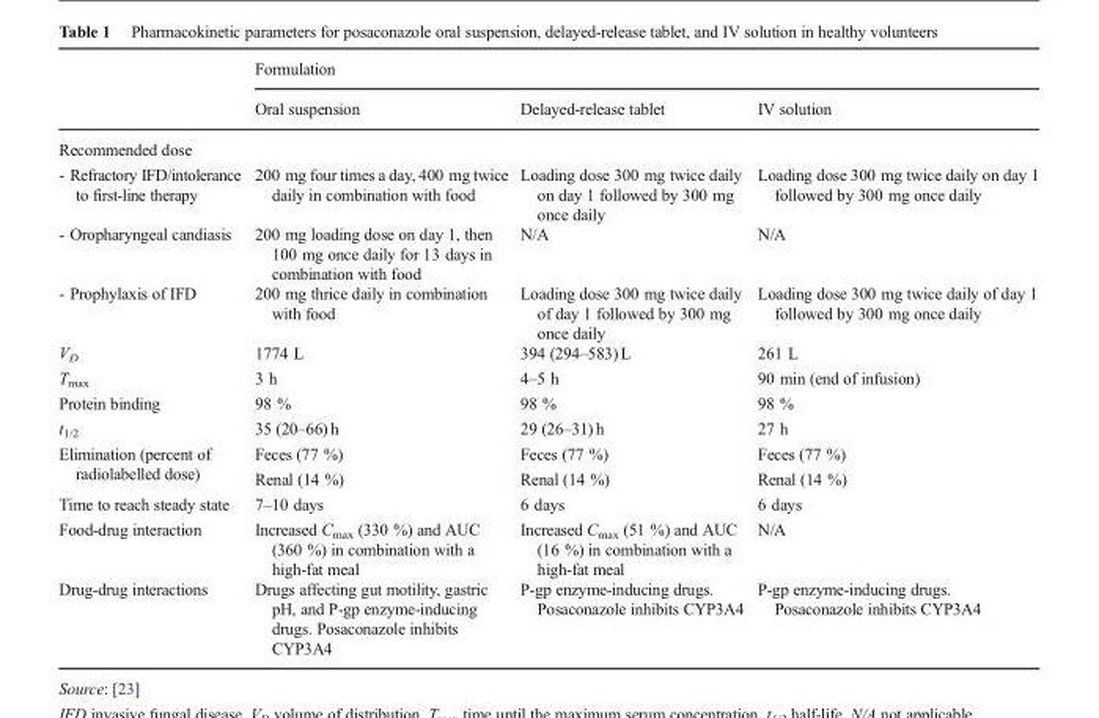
<table><thead><tr><td rowspan="2"></td><td colspan="3">Formulation</td></tr><tr><td>Oral suspension</td><td>Delayed-release tablet</td><td>IV solution</td></tr></thead><tbody><tr><td colspan="4">Recommended dose</td></tr><tr><td>- Refractory IFD/intolerance to first-line therapy</td><td>200 mg four times a day, 400 mg twice daily in combination with food</td><td>Loading dose 300 mg twice daily on day 1 followed by 300 mg once daily</td><td>Loading dose 300 mg twice daily on day 1 followed by 300 mg once daily</td></tr><tr><td>- Oropharyngeal candiasis</td><td>200 mg loading dose on day 1, then 100 mg once daily for 13 days in combination with food</td><td>N/A</td><td>N/A</td></tr><tr><td>- Prophylaxis of IFD</td><td>200 mg thrice daily in combination with food</td><td>Loading dose 300 mg twice daily of day 1 followed by 300 mg once daily</td><td>Loading dose 300 mg twice daily of day 1 followed by 300 mg once daily</td></tr><tr><td>V<sub>D</sub></td><td>1774 L</td><td>394 (294–583) L</td><td>261 L</td></tr><tr><td>T<sub>max</sub></td><td>3 h</td><td>4–5 h</td><td>90 min (end of infusion)</td></tr><tr><td>Protein binding</td><td>98 %</td><td>98 %</td><td>98 %</td></tr><tr><td>t<sub>1/2</sub></td><td>35 (20–66) h</td><td>29 (26–31) h</td><td>27 h</td></tr><tr><td rowspan="2">Elimination (percent of radiolabelled dose)</td><td>Feces (77 %)</td><td>Feces (77 %)</td><td>Feces (77 %)</td></tr><tr><td>Renal (14 %)</td><td>Renal (14 %)</td><td>Renal (14 %)</td></tr><tr><td>Time to reach steady state</td><td>7–10 days</td><td>6 days</td><td>6 days</td></tr><tr><td>Food-drug interaction</td><td>Increased C<sub>max</sub> (330 %) and AUC (360 %) in combination with a high-fat meal</td><td>Increased C<sub>max</sub> (51 %) and AUC (16 %) in combination with a high-fat meal</td><td>N/A</td></tr><tr><td>Drug-drug interactions</td><td>Drugs affecting gut motility, gastric pH, and P-gp enzyme-inducing drugs. Posaconazole inhibits CYP3A4</td><td>P-gp enzyme-inducing drugs. Posaconazole inhibits CYP3A4</td><td>P-gp enzyme-inducing drugs. Posaconazole inhibits CYP3A4</td></tr></tbody></table>